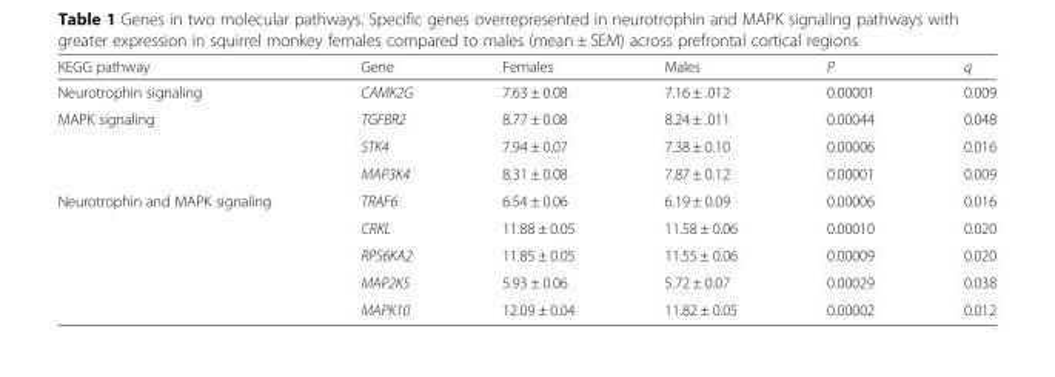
<table><thead><tr><td>KEGG pathway</td><td>Gene</td><td>Females</td><td>Males</td><td>P</td><td>q</td></tr></thead><tbody><tr><td>Neurotrophin signaling</td><td>CAMK2G</td><td>7.63 ± 0.08</td><td>7.16 ± .012</td><td>0.00001</td><td>0.009</td></tr><tr><td rowspan="3">MAPK signaling</td><td>TGFBR2</td><td>8.77 ± 0.08</td><td>8.24 ± .011</td><td>0.00044</td><td>0.048</td></tr><tr><td>STK4</td><td>7.94 ± 0.07</td><td>7.38 ± 0.10</td><td>0.00006</td><td>0.016</td></tr><tr><td>MAP3K4</td><td>8.31 ± 0.08</td><td>7.87 ± 0.12</td><td>0.00001</td><td>0.009</td></tr><tr><td rowspan="5">Neurotrophin and MAPK signaling</td><td>TRAF6</td><td>6.54 ± 0.06</td><td>6.19 ± 0.09</td><td>0.00006</td><td>0.016</td></tr><tr><td>CRKL</td><td>11.88 ± 0.05</td><td>11.58 ± 0.06</td><td>0.00010</td><td>0.020</td></tr><tr><td>RPS6KA2</td><td>11.85 ± 0.05</td><td>11.55 ± 0.06</td><td>0.00009</td><td>0.020</td></tr><tr><td>MAP2K5</td><td>5.93 ± 0.06</td><td>5.72 ± 0.07</td><td>0.00029</td><td>0.038</td></tr><tr><td>MAPK10</td><td>12.09 ± 0.04</td><td>11.82 ± 0.05</td><td>0.00002</td><td>0.012</td></tr></tbody></table>